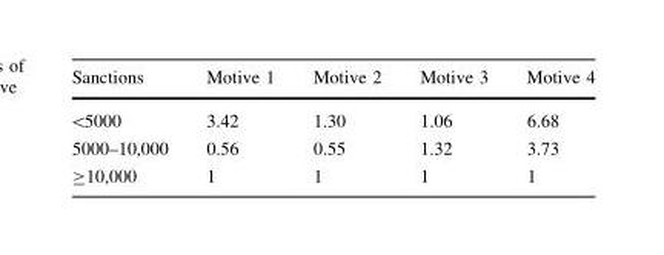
<table><thead><tr><td>Sanctions</td><td>Motive 1</td><td>Motive 2</td><td>Motive 3</td><td>Motive 4</td></tr></thead><tbody><tr><td>&lt;5000</td><td>3.42</td><td>1.30</td><td>1.06</td><td>6.68</td></tr><tr><td>5000–10,000</td><td>0.56</td><td>0.55</td><td>1.32</td><td>3.73</td></tr><tr><td>≥10,000</td><td>1</td><td>1</td><td>1</td><td>1</td></tr></tbody></table>